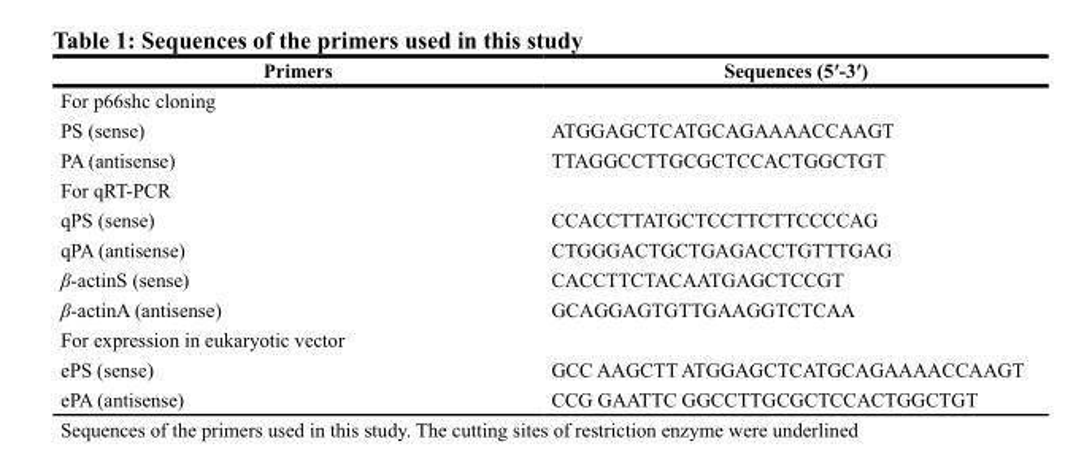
<table><thead><tr><td>Primers</td><td>Sequences (5′-3′)</td></tr></thead><tbody><tr><td colspan="2">For p66shc cloning</td></tr><tr><td>PS (sense)</td><td>ATGGAGCTCATGCAGAAAACCAAGT</td></tr><tr><td>PA (antisense)</td><td>TTAGGCCTTGCGCTCCACTGGCTGT</td></tr><tr><td colspan="2">For qRT-PCR</td></tr><tr><td>qPS (sense)</td><td>CCACCTTATGCTCCTTCTTCCCCAG</td></tr><tr><td>qPA (antisense)</td><td>CTGGGACTGCTGAGACCTGTTTGAG</td></tr><tr><td>β-actinS (sense)</td><td>CACCTTCTACAATGAGCTCCGT</td></tr><tr><td>β-actinA (antisense)</td><td>GCAGGAGTGTTGAAGGTCTCAA</td></tr><tr><td colspan="2">For expression in eukaryotic vector</td></tr><tr><td>ePS (sense)</td><td>GCC AAGCTT ATGGAGCTCATGCAGAAAACCAAGT</td></tr><tr><td>ePA (antisense)</td><td>CCG GAATTC GGCCTTGCGCTCCACTGGCTGT</td></tr></tbody></table>